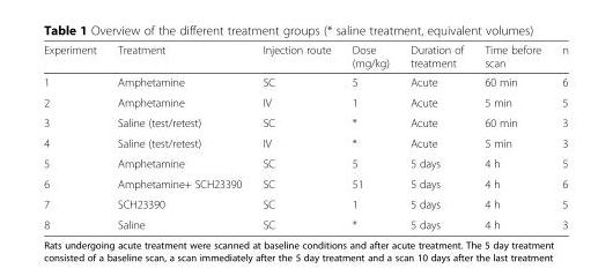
<table><thead><tr><td>Experiment</td><td>Treatment</td><td>Injection route</td><td>Dose (mg/kg)</td><td>Duration of treatment</td><td>Time before scan</td><td>n</td></tr></thead><tbody><tr><td>1</td><td>Amphetamine</td><td>SC</td><td>5</td><td>Acute</td><td>60 min</td><td>6</td></tr><tr><td>2</td><td>Amphetamine</td><td>IV</td><td>1</td><td>Acute</td><td>5 min</td><td>5</td></tr><tr><td>3</td><td>Saline (test/retest)</td><td>SC</td><td>*</td><td>Acute</td><td>60 min</td><td>3</td></tr><tr><td>4</td><td>Saline (test/retest)</td><td>IV</td><td>*</td><td>Acute</td><td>5 min</td><td>3</td></tr><tr><td>5</td><td>Amphetamine</td><td>SC</td><td>5</td><td>5 days</td><td>4 h</td><td>5</td></tr><tr><td>6</td><td>Amphetamine+ SCH23390</td><td>SC</td><td>51</td><td>5 days</td><td>4 h</td><td>6</td></tr><tr><td>7</td><td>SCH23390</td><td>SC</td><td>1</td><td>5 days</td><td>4 h</td><td>5</td></tr><tr><td>8</td><td>Saline</td><td>SC</td><td>*</td><td>5 days</td><td>4 h</td><td>3</td></tr></tbody></table>